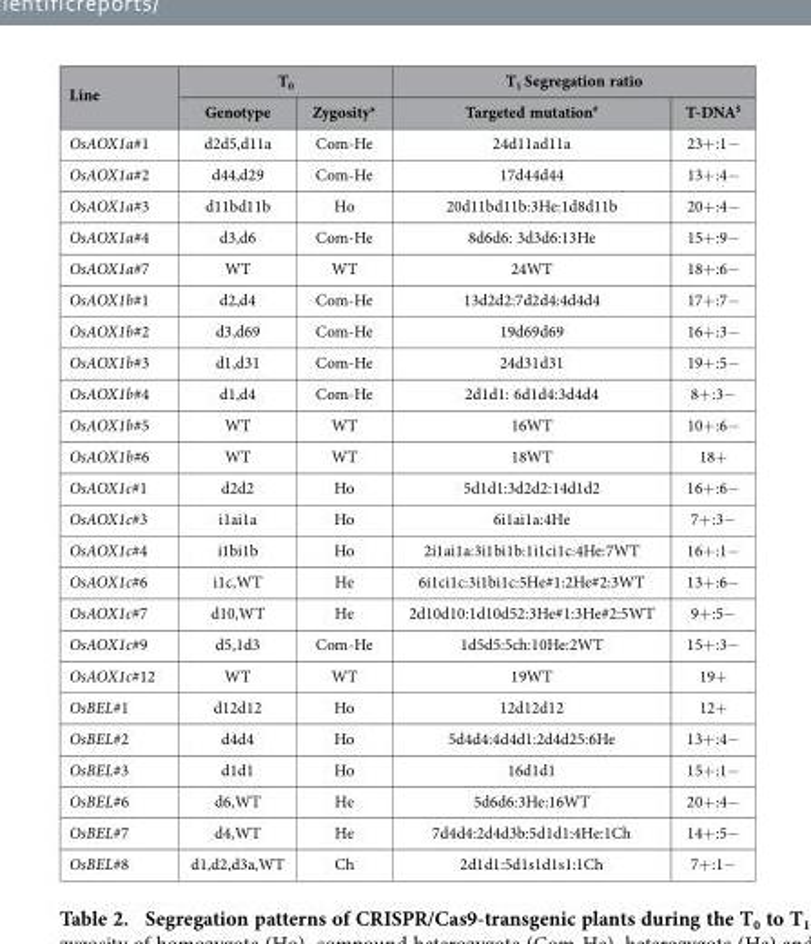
<table><thead><tr><td rowspan="2">Line</td><td colspan="2">T<sub>0</sub></td><td colspan="2">T<sub>1</sub> Segregation ratio</td></tr><tr><td>Genotype</td><td>Zygosity*</td><td>Targeted mutation#</td><td>T-DNA$</td></tr></thead><tbody><tr><td>OsAOX1a#1</td><td>d2d5,d11a</td><td>Com-He</td><td>24d11ad11a</td><td>23+ :1−</td></tr><tr><td>OsAOX1a#2</td><td>d44,d29</td><td>Com-He</td><td>17d44d44</td><td>13+ :4−</td></tr><tr><td>OsAOX1a#3</td><td>d11bd11b</td><td>Ho</td><td>20d11bd11b:3He:1d8d11b</td><td>20+ :4−</td></tr><tr><td>OsAOX1a#4</td><td>d3,d6</td><td>Com-He</td><td>8d6d6: 3d3d6:13He</td><td>15+ :9−</td></tr><tr><td>OsAOX1a#7</td><td>WT</td><td>WT</td><td>24WT</td><td>18+ :6−</td></tr><tr><td>OsAOX1b#1</td><td>d2,d4</td><td>Com-He</td><td>13d2d2:7d2d4:4d4d4</td><td>17+ :7−</td></tr><tr><td>OsAOX1b#2</td><td>d3,d69</td><td>Com-He</td><td>19d69d69</td><td>16+ :3−</td></tr><tr><td>OsAOX1b#3</td><td>d1,d31</td><td>Com-He</td><td>24d31d31</td><td>19+ :5−</td></tr><tr><td>OsAOX1b#4</td><td>d1,d4</td><td>Com-He</td><td>2d1d1: 6d1d4:3d4d4</td><td>8+ :3−</td></tr><tr><td>OsAOX1b#5</td><td>WT</td><td>WT</td><td>16WT</td><td>10+ :6−</td></tr><tr><td>OsAOX1b#6</td><td>WT</td><td>WT</td><td>18WT</td><td>18+</td></tr><tr><td>OsAOX1c#1</td><td>d2d2</td><td>Ho</td><td>5d1d1:3d2d2:14d1d2</td><td>16+ :6−</td></tr><tr><td>OsAOX1c#3</td><td>i1ai1a</td><td>Ho</td><td>6i1ai1a:4He</td><td>7+ :3−</td></tr><tr><td>OsAOX1c#4</td><td>i1bi1b</td><td>Ho</td><td>2i1ai1a:3i1bi1b:1i1ci1c:4He:7WT</td><td>16+ :1−</td></tr><tr><td>OsAOX1c#6</td><td>i1c,WT</td><td>He</td><td>6i1ci1c:3i1bi1c:5He#1:2He#2:3WT</td><td>13+ :6−</td></tr><tr><td>OsAOX1c#7</td><td>d10,WT</td><td>He</td><td>2d10d10:1d10d52:3He#1:3He#2:5WT</td><td>9+ :5−</td></tr><tr><td>OsAOX1c#9</td><td>d5,1d3</td><td>Com-He</td><td>1d5d5:5ch:10He:2WT</td><td>15+ :3−</td></tr><tr><td>OsAOX1c#12</td><td>WT</td><td>WT</td><td>19WT</td><td>19+</td></tr><tr><td>OsBEL#1</td><td>d12d12</td><td>Ho</td><td>12d12d12</td><td>12+</td></tr><tr><td>OsBEL#2</td><td>d4d4</td><td>Ho</td><td>5d4d4:4d4d1:2d4d25:6He</td><td>13+ :4−</td></tr><tr><td>OsBEL#3</td><td>d1d1</td><td>Ho</td><td>16d1d1</td><td>15+ :1−</td></tr><tr><td>OsBEL#6</td><td>d6,WT</td><td>He</td><td>5d6d6:3He:16WT</td><td>20+ :4−</td></tr><tr><td>OsBEL#7</td><td>d4,WT</td><td>He</td><td>7d4d4:2d4d3b:5d1d1:4He:1Ch</td><td>14+ :5−</td></tr><tr><td>OsBEL#8</td><td>d1,d2,d3a,WT</td><td>Ch</td><td>2d1d1:5d1s1d1s1:1Ch</td><td>7+ :1−</td></tr></tbody></table>